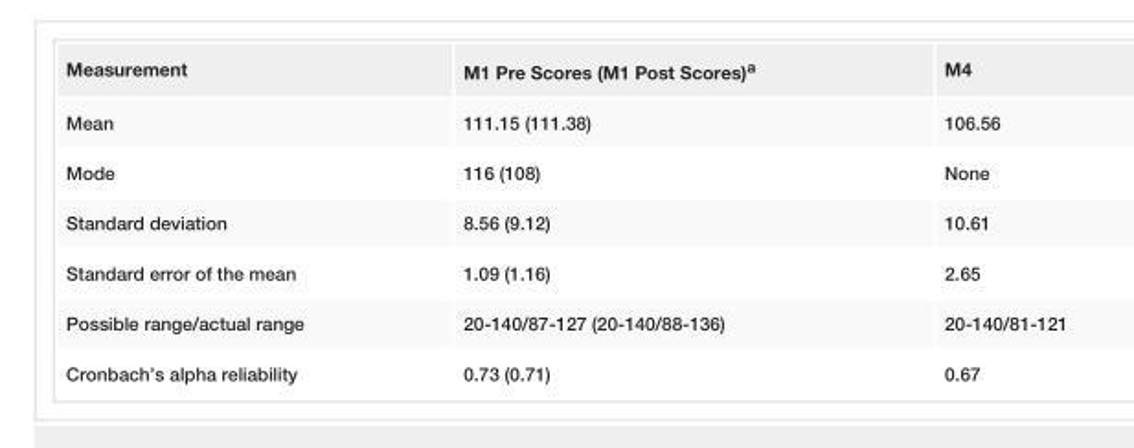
<table><tbody><tr><td>Measurement</td><td>M1 Pre Scores (M1 Post Scores)<sup>a</sup></td><td>M4</td></tr><tr><td>Mean</td><td>111.15 (111.38)</td><td>106.56</td></tr><tr><td>Mode</td><td>116 (108)</td><td>None</td></tr><tr><td>Standard deviation</td><td>8.56 (9.12)</td><td>10.61</td></tr><tr><td>Standard error of the mean</td><td>1.09 (1.16)</td><td>2.65</td></tr><tr><td>Possible range/actual range</td><td>20-140/87-127 (20-140/88-136)</td><td>20-140/81-121</td></tr><tr><td>Cronbach’s alpha reliability</td><td>0.73 (0.71)</td><td>0.67</td></tr></tbody></table>